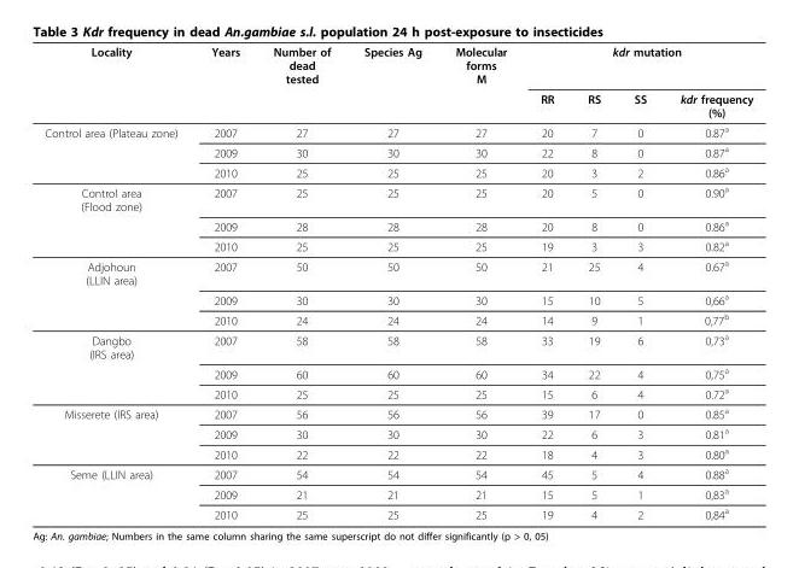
<table><thead><tr><td rowspan="2">Locality</td><td rowspan="2">Years</td><td rowspan="2">Number of dead tested</td><td rowspan="2">Species Ag</td><td rowspan="2">Molecular forms M</td><td colspan="4">kdr mutation</td></tr><tr><td>RR</td><td>RS</td><td>SS</td><td>kdr frequency (%)</td></tr></thead><tbody><tr><td rowspan="3">Control area (Plateau zone)</td><td>2007</td><td>27</td><td>27</td><td>27</td><td>20</td><td>7</td><td>0</td><td>0.87<sup>a</sup></td></tr><tr><td>2009</td><td>30</td><td>30</td><td>30</td><td>22</td><td>8</td><td>0</td><td>0.87<sup>a</sup></td></tr><tr><td>2010</td><td>25</td><td>25</td><td>25</td><td>20</td><td>3</td><td>2</td><td>0.86<sup>a</sup></td></tr><tr><td rowspan="3">Control area (Flood zone)</td><td>2007</td><td>25</td><td>25</td><td>25</td><td>20</td><td>5</td><td>0</td><td>0.90<sup>a</sup></td></tr><tr><td>2009</td><td>28</td><td>28</td><td>28</td><td>20</td><td>8</td><td>0</td><td>0.86<sup>a</sup></td></tr><tr><td>2010</td><td>25</td><td>25</td><td>25</td><td>19</td><td>3</td><td>3</td><td>0.82<sup>a</sup></td></tr><tr><td rowspan="3">Adjohoun (LLIN area)</td><td>2007</td><td>50</td><td>50</td><td>50</td><td>21</td><td>25</td><td>4</td><td>0.67<sup>a</sup></td></tr><tr><td>2009</td><td>30</td><td>30</td><td>30</td><td>15</td><td>10</td><td>5</td><td>0,66<sup>a</sup></td></tr><tr><td>2010</td><td>24</td><td>24</td><td>24</td><td>14</td><td>9</td><td>1</td><td>0,77<sup>b</sup></td></tr><tr><td rowspan="3">Dangbo (IRS area)</td><td>2007</td><td>58</td><td>58</td><td>58</td><td>33</td><td>19</td><td>6</td><td>0,73<sup>a</sup></td></tr><tr><td>2009</td><td>60</td><td>60</td><td>60</td><td>34</td><td>22</td><td>4</td><td>0,75<sup>a</sup></td></tr><tr><td>2010</td><td>25</td><td>25</td><td>25</td><td>15</td><td>6</td><td>4</td><td>0.72<sup>a</sup></td></tr><tr><td rowspan="3">Misserete (IRS area)</td><td>2007</td><td>56</td><td>56</td><td>56</td><td>39</td><td>17</td><td>0</td><td>0.85<sup>a</sup></td></tr><tr><td>2009</td><td>30</td><td>30</td><td>30</td><td>22</td><td>6</td><td>3</td><td>0.81<sup>a</sup></td></tr><tr><td>2010</td><td>22</td><td>22</td><td>22</td><td>18</td><td>4</td><td>3</td><td>0.80<sup>a</sup></td></tr><tr><td rowspan="3">Seme (LLIN area)</td><td>2007</td><td>54</td><td>54</td><td>54</td><td>45</td><td>5</td><td>4</td><td>0.88<sup>a</sup></td></tr><tr><td>2009</td><td>21</td><td>21</td><td>21</td><td>15</td><td>5</td><td>1</td><td>0,83<sup>a</sup></td></tr><tr><td>2010</td><td>25</td><td>25</td><td>25</td><td>19</td><td>4</td><td>2</td><td>0,84<sup>a</sup></td></tr></tbody></table>